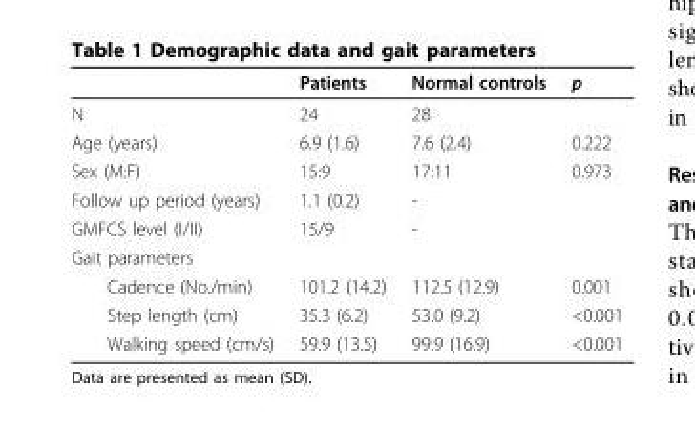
<table><thead><tr><td></td><td>Patients</td><td>Normal controls</td><td>p</td></tr></thead><tbody><tr><td>N</td><td>24</td><td>28</td><td></td></tr><tr><td>Age (years)</td><td>6.9 (1.6)</td><td>7.6 (2.4)</td><td>0.222</td></tr><tr><td>Sex (M:F)</td><td>15:9</td><td>17:11</td><td>0.973</td></tr><tr><td>Follow up period (years)</td><td>1.1 (0.2)</td><td>-</td><td></td></tr><tr><td>GMFCS level (I/II)</td><td>15/9</td><td>-</td><td></td></tr><tr><td colspan="4">Gait parameters</td></tr><tr><td>Cadence (No./min)</td><td>101.2 (14.2)</td><td>112.5 (12.9)</td><td>0.001</td></tr><tr><td>Step length (cm)</td><td>35.3 (6.2)</td><td>53.0 (9.2)</td><td>&lt;0.001</td></tr><tr><td>Walking speed (cm/s)</td><td>59.9 (13.5)</td><td>99.9 (16.9)</td><td>&lt;0.001</td></tr></tbody></table>